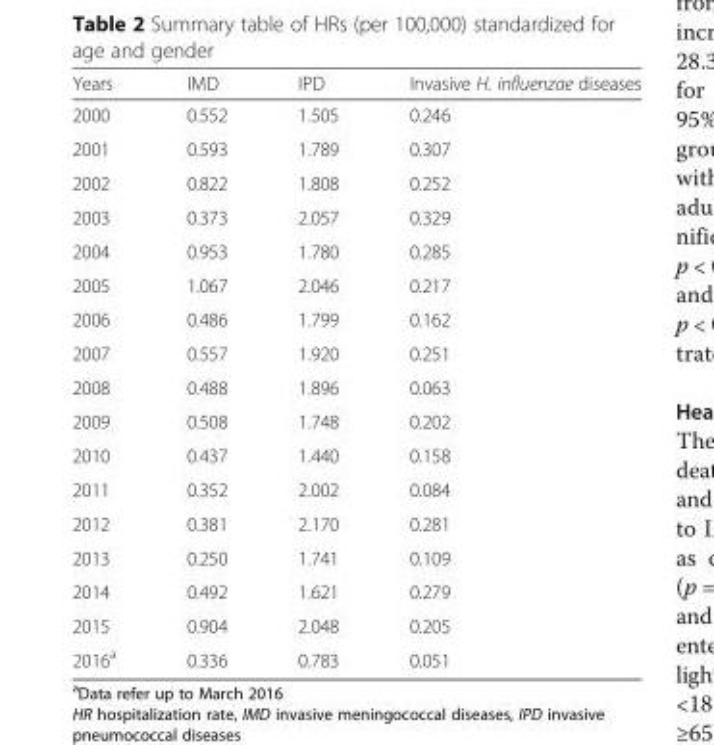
<table><thead><tr><td>Years</td><td>IMD</td><td>IPD</td><td>Invasive H. influenzae diseases</td></tr></thead><tbody><tr><td>2000</td><td>0.552</td><td>1.505</td><td>0.246</td></tr><tr><td>2001</td><td>0.593</td><td>1.789</td><td>0.307</td></tr><tr><td>2002</td><td>0.822</td><td>1.808</td><td>0.252</td></tr><tr><td>2003</td><td>0.373</td><td>2.057</td><td>0.329</td></tr><tr><td>2004</td><td>0.953</td><td>1.780</td><td>0.285</td></tr><tr><td>2005</td><td>1.067</td><td>2.046</td><td>0.217</td></tr><tr><td>2006</td><td>0.486</td><td>1.799</td><td>0.162</td></tr><tr><td>2007</td><td>0.557</td><td>1.920</td><td>0.251</td></tr><tr><td>2008</td><td>0.488</td><td>1.896</td><td>0.063</td></tr><tr><td>2009</td><td>0.508</td><td>1.748</td><td>0.202</td></tr><tr><td>2010</td><td>0.437</td><td>1.440</td><td>0.158</td></tr><tr><td>2011</td><td>0.352</td><td>2.002</td><td>0.084</td></tr><tr><td>2012</td><td>0.381</td><td>2.170</td><td>0.281</td></tr><tr><td>2013</td><td>0.250</td><td>1.741</td><td>0.109</td></tr><tr><td>2014</td><td>0.492</td><td>1.621</td><td>0.279</td></tr><tr><td>2015</td><td>0.904</td><td>2.048</td><td>0.205</td></tr><tr><td>2016<sup>a</sup></td><td>0.336</td><td>0.783</td><td>0.051</td></tr></tbody></table>